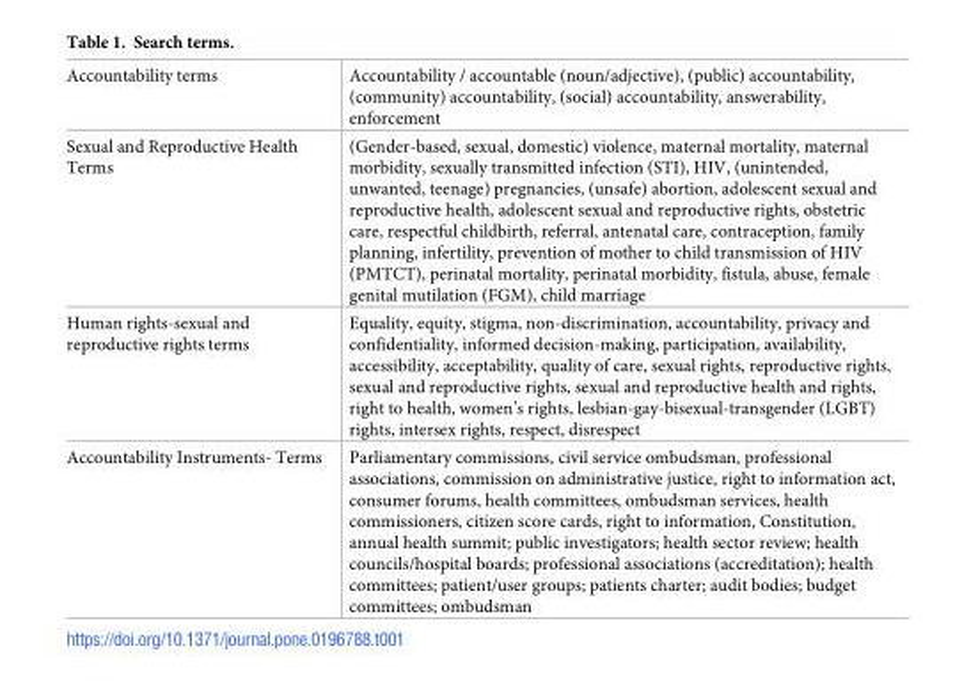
<table><tbody><tr><td>Accountability terms</td><td>Accountability / accountable (noun/adjective), (public) accountability, (community) accountability, (social) accountability, answerability, enforcement</td></tr><tr><td>Sexual and Reproductive Health Terms</td><td>(Gender-based, sexual, domestic) violence, maternal mortality, maternal morbidity, sexually transmitted infection (STI), HIV, (unintended, unwanted, teenage) pregnancies, (unsafe) abortion, adolescent sexual and reproductive health, adolescent sexual and reproductive rights, obstetric care, respectful childbirth, referral, antenatal care, contraception, family planning, infertility, prevention of mother to child transmission of HIV (PMTCT), perinatal mortality, perinatal morbidity, fistula, abuse, female genital mutilation (FGM), child marriage</td></tr><tr><td>Human rights-sexual and reproductive rights terms</td><td>Equality, equity, stigma, non-discrimination, accountability, privacy and confidentiality, informed decision-making, participation, availability, accessibility, acceptability, quality of care, sexual rights, reproductive rights, sexual and reproductive rights, sexual and reproductive health and rights, right to health, women’s rights, lesbian-gay-bisexual-transgender (LGBT) rights, intersex rights, respect, disrespect</td></tr><tr><td>Accountability Instruments- Terms</td><td>Parliamentary commissions, civil service ombudsman, professional associations, commission on administrative justice, right to information act, consumer forums, health committees, ombudsman services, health commissioners, citizen score cards, right to information, Constitution, annual health summit; public investigators; health sector review; health councils/hospital boards; professional associations (accreditation); health committees; patient/user groups; patients charter; audit bodies; budget committees; ombudsman</td></tr></tbody></table>